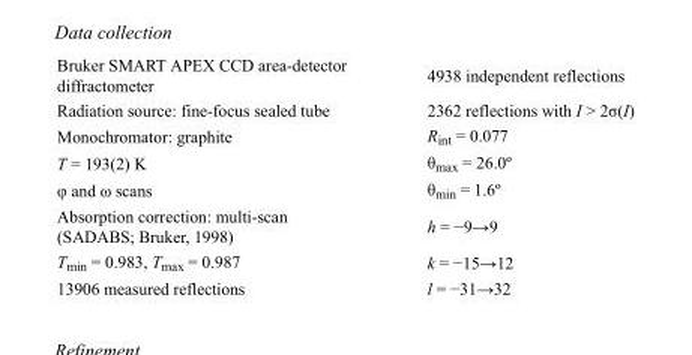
<table><tbody><tr><td>Bruker SMART APEX CCD area-detector diffractometer</td><td>4938 independent reflections</td></tr><tr><td>Radiation source: fine-focus sealed tube</td><td>2362 reflections with I &gt; 2σ(I)</td></tr><tr><td>Monochromator: graphite</td><td>R<sub>int</sub> = 0.077</td></tr><tr><td>T = 193(2) K</td><td>θ<sub>max</sub> = 26.0º</td></tr><tr><td>φ and ω scans</td><td>θ<sub>min</sub> = 1.6º</td></tr><tr><td>Absorption correction: multi-scan (SADABS; Bruker, 1998)</td><td>h = −9→9</td></tr><tr><td>T<sub>min</sub> = 0.983, T<sub>max</sub> = 0.987</td><td>k = −15→12</td></tr><tr><td>13906 measured reflections</td><td>l = −31→32</td></tr></tbody></table>